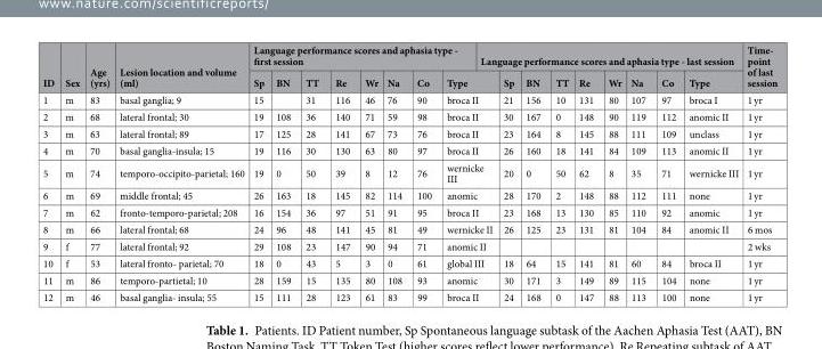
<table><thead><tr><td rowspan="2">ID</td><td rowspan="2">Sex</td><td rowspan="2">Age (yrs)</td><td rowspan="2">Lesion location and volume (ml)</td><td colspan="8">Language performance scores and aphasia type - first session</td><td colspan="9">Language performance scores and aphasia type - last session</td><td rowspan="2">Time- point of last session</td></tr><tr><td>Sp</td><td>BN</td><td>TT</td><td>Re</td><td>Wr</td><td>Na</td><td>Co</td><td colspan="2">Type</td><td>Sp</td><td>BN</td><td>TT</td><td>Re</td><td>Wr</td><td>Na</td><td>Co</td><td>Type</td></tr></thead><tbody><tr><td>1</td><td>m</td><td>83</td><td>basal ganglia; 9</td><td>15</td><td></td><td>31</td><td>116</td><td>46</td><td>76</td><td>90</td><td colspan="2">broca II</td><td>21</td><td>156</td><td>10</td><td>131</td><td>80</td><td>107</td><td>97</td><td>broca I</td><td>1 yr</td></tr><tr><td>2</td><td>m</td><td>68</td><td>lateral frontal; 30</td><td>19</td><td>108</td><td>36</td><td>140</td><td>71</td><td>59</td><td>98</td><td colspan="2">broca II</td><td>30</td><td>167</td><td>0</td><td>148</td><td>90</td><td>119</td><td>112</td><td>anomic II</td><td>1 yr</td></tr><tr><td>3</td><td>m</td><td>63</td><td>lateral frontal; 89</td><td>17</td><td>125</td><td>28</td><td>141</td><td>67</td><td>73</td><td>76</td><td colspan="2">broca II</td><td>23</td><td>164</td><td>8</td><td>145</td><td>88</td><td>111</td><td>109</td><td>unclass</td><td>1 yr</td></tr><tr><td>4</td><td>m</td><td>70</td><td>basal ganglia-insula; 15</td><td>19</td><td>116</td><td>30</td><td>130</td><td>63</td><td>80</td><td>97</td><td colspan="2">broca II</td><td>26</td><td>160</td><td>18</td><td>141</td><td>84</td><td>109</td><td>113</td><td>anomic II</td><td>1 yr</td></tr><tr><td>5</td><td>m</td><td>74</td><td>temporo-occipito-parietal; 160</td><td>19</td><td>0</td><td>50</td><td>39</td><td>8</td><td>12</td><td>76</td><td colspan="2">wernicke III</td><td>20</td><td>0</td><td>50</td><td>62</td><td>8</td><td>35</td><td>71</td><td>wernicke III</td><td>1 yr</td></tr><tr><td>6</td><td>m</td><td>69</td><td>middle frontal; 45</td><td>26</td><td>163</td><td>18</td><td>145</td><td>82</td><td>114</td><td>100</td><td colspan="2">anomic</td><td>28</td><td>170</td><td>2</td><td>148</td><td>88</td><td>112</td><td>111</td><td>none</td><td>1 yr</td></tr><tr><td>7</td><td>m</td><td>62</td><td>fronto-temporo-parietal; 208</td><td>16</td><td>154</td><td>36</td><td>97</td><td>51</td><td>91</td><td>95</td><td colspan="2">broca II</td><td>23</td><td>168</td><td>13</td><td>130</td><td>85</td><td>110</td><td>92</td><td>anomic</td><td>1 yr</td></tr><tr><td>8</td><td>m</td><td>66</td><td>lateral frontal; 68</td><td>24</td><td>96</td><td>48</td><td>141</td><td>45</td><td>81</td><td>49</td><td colspan="2">wernicke II</td><td>26</td><td>125</td><td>23</td><td>131</td><td>81</td><td>104</td><td>84</td><td>anomic II</td><td>6 mos</td></tr><tr><td>9</td><td>f</td><td>77</td><td>lateral frontal; 92</td><td>29</td><td>108</td><td>23</td><td>147</td><td>90</td><td>94</td><td>71</td><td colspan="2">anomic II</td><td></td><td></td><td></td><td></td><td></td><td></td><td></td><td></td><td>2 wks</td></tr><tr><td>10</td><td>f</td><td>53</td><td>lateral fronto- parietal; 70</td><td>18</td><td>0</td><td>43</td><td>5</td><td>3</td><td>0</td><td>61</td><td colspan="2">global III</td><td>18</td><td>64</td><td>15</td><td>141</td><td>81</td><td>60</td><td>84</td><td>broca II</td><td>1 yr</td></tr><tr><td>11</td><td>m</td><td>86</td><td>temporo-partietal; 10</td><td>28</td><td>159</td><td>15</td><td>135</td><td>80</td><td>108</td><td>93</td><td colspan="2">anomic</td><td>30</td><td>171</td><td>3</td><td>149</td><td>89</td><td>115</td><td>104</td><td>none</td><td>1 yr</td></tr><tr><td>12</td><td>m</td><td>46</td><td>basal ganglia- insula; 55</td><td>15</td><td>111</td><td>28</td><td>123</td><td>61</td><td>83</td><td>99</td><td colspan="2">broca II</td><td>24</td><td>168</td><td>0</td><td>147</td><td>88</td><td>113</td><td>100</td><td>none</td><td>1 yr</td></tr></tbody></table>